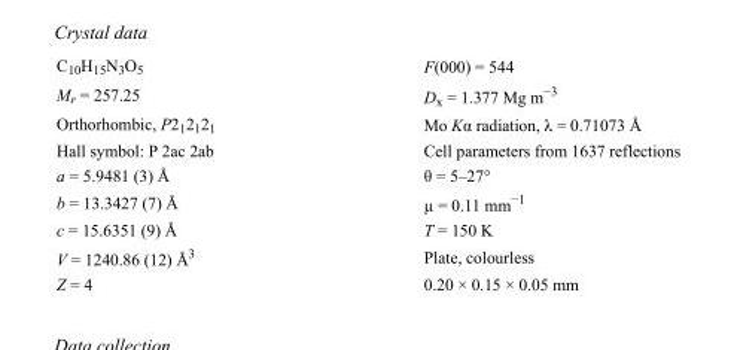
<table><tbody><tr><td>C<sub>10</sub>H<sub>15</sub>N<sub>3</sub>O<sub>5</sub></td><td>F(000) = 544</td></tr><tr><td>M<sub>r</sub> = 257.25</td><td>D<sub>x</sub> = 1.377 Mg m<sup>−3</sup></td></tr><tr><td>Orthorhombic, P2<sub>1</sub>2<sub>1</sub>2<sub>1</sub></td><td>Mo Kα radiation, λ = 0.71073 Å</td></tr><tr><td>Hall symbol: P 2ac 2ab</td><td>Cell parameters from 1637 reflections</td></tr><tr><td>a = 5.9481 (3) Å</td><td>θ = 5–27°</td></tr><tr><td>b = 13.3427 (7) Å</td><td>µ = 0.11 mm<sup>−1</sup></td></tr><tr><td>c = 15.6351 (9) Å</td><td>T = 150 K</td></tr><tr><td>V = 1240.86 (12) Å<sup>3</sup></td><td>Plate, colourless</td></tr><tr><td>Z = 4</td><td>0.20 × 0.15 × 0.05 mm</td></tr></tbody></table>